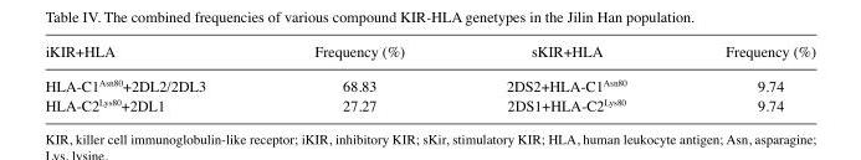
<table><thead><tr><td>iKIR+HLA</td><td>Frequency (%)</td><td>sKIR+HLA</td><td>Frequency (%)</td></tr></thead><tbody><tr><td>HLA-C1<sup>Asn80</sup>+2DL2/2DL3</td><td>68.83</td><td>2DS2+HLA-C1<sup>Asn80</sup></td><td>9.74</td></tr><tr><td>HLA-C2<sup>Lys80</sup>+2DL1</td><td>27.27</td><td>2DS1+HLA-C2<sup>Lys80</sup></td><td>9.74</td></tr></tbody></table>